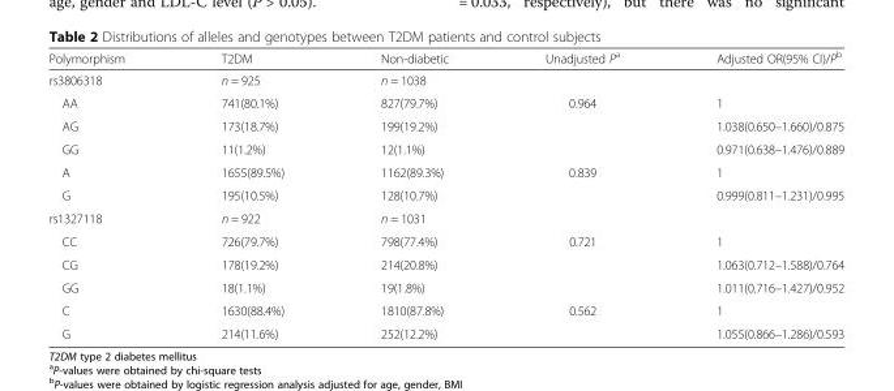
<table><thead><tr><td>Polymorphism</td><td>T2DM</td><td>Non-diabetic</td><td>Unadjusted P<sup>a</sup></td><td>Adjusted OR(95% CI)/P<sup>b</sup></td></tr></thead><tbody><tr><td>rs3806318</td><td>n = 925</td><td>n = 1038</td><td></td><td></td></tr><tr><td>AA</td><td>741(80.1%)</td><td>827(79.7%)</td><td>0.964</td><td>1</td></tr><tr><td>AG</td><td>173(18.7%)</td><td>199(19.2%)</td><td></td><td>1.038(0.650–1.660)/0.875</td></tr><tr><td>GG</td><td>11(1.2%)</td><td>12(1.1%)</td><td></td><td>0.971(0.638–1.476)/0.889</td></tr><tr><td>A</td><td>1655(89.5%)</td><td>1162(89.3%)</td><td>0.839</td><td>1</td></tr><tr><td>G</td><td>195(10.5%)</td><td>128(10.7%)</td><td></td><td>0.999(0.811–1.231)/0.995</td></tr><tr><td>rs1327118</td><td>n = 922</td><td>n = 1031</td><td></td><td></td></tr><tr><td>CC</td><td>726(79.7%)</td><td>798(77.4%)</td><td>0.721</td><td>1</td></tr><tr><td>CG</td><td>178(19.2%)</td><td>214(20.8%)</td><td></td><td>1.063(0.712–1.588)/0.764</td></tr><tr><td>GG</td><td>18(1.1%)</td><td>19(1.8%)</td><td></td><td>1.011(0.716–1.427)/0.952</td></tr><tr><td>C</td><td>1630(88.4%)</td><td>1810(87.8%)</td><td>0.562</td><td>1</td></tr><tr><td>G</td><td>214(11.6%)</td><td>252(12.2%)</td><td></td><td>1.055(0.866–1.286)/0.593</td></tr></tbody></table>